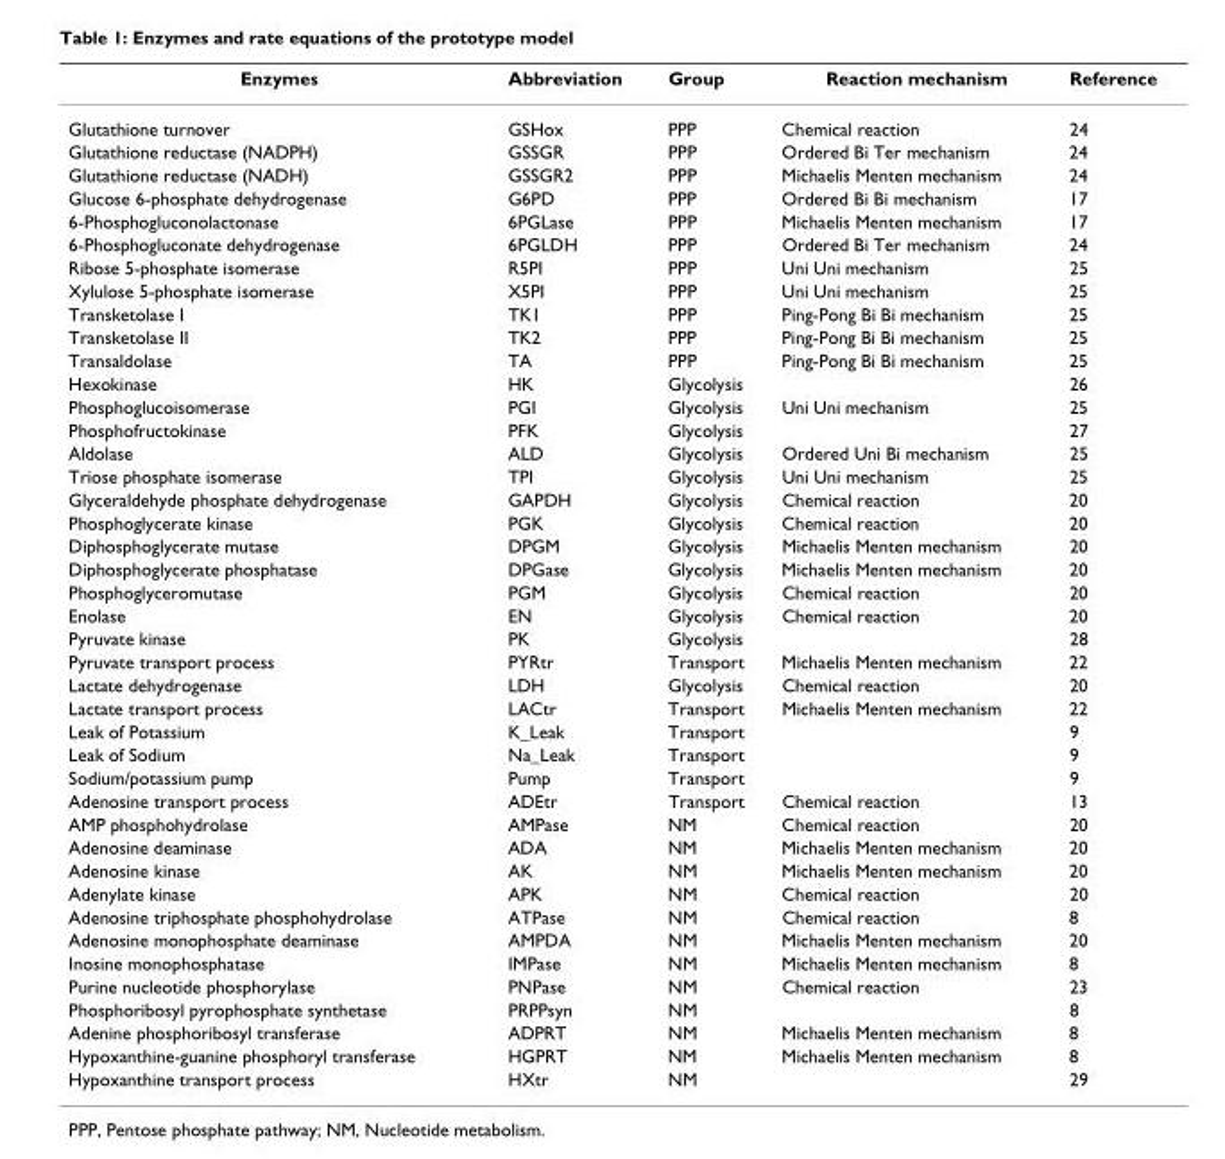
<table><thead><tr><td>Enzymes</td><td>Abbreviation</td><td>Group</td><td>Reaction mechanism</td><td>Reference</td></tr></thead><tbody><tr><td>Glutathione turnover</td><td>GSHox</td><td>PPP</td><td>Chemical reaction</td><td>24</td></tr><tr><td>Glutathione reductase (NADPH)</td><td>GSSGR</td><td>PPP</td><td>Ordered Bi Ter mechanism</td><td>24</td></tr><tr><td>Glutathione reductase (NADH)</td><td>GSSGR2</td><td>PPP</td><td>Michaelis Menten mechanism</td><td>24</td></tr><tr><td>Glucose 6-phosphate dehydrogenase</td><td>G6PD</td><td>PPP</td><td>Ordered Bi Bi mechanism</td><td>17</td></tr><tr><td>6-Phosphogluconolactonase</td><td>6PGLase</td><td>PPP</td><td>Michaelis Menten mechanism</td><td>17</td></tr><tr><td>6-Phosphogluconate dehydrogenase</td><td>6PGLDH</td><td>PPP</td><td>Ordered Bi Ter mechanism</td><td>24</td></tr><tr><td>Ribose 5-phosphate isomerase</td><td>R5PI</td><td>PPP</td><td>Uni Uni mechanism</td><td>25</td></tr><tr><td>Xylulose 5-phosphate isomerase</td><td>X5PI</td><td>PPP</td><td>Uni Uni mechanism</td><td>25</td></tr><tr><td>Transketolase I</td><td>TK1</td><td>PPP</td><td>Ping-Pong Bi Bi mechanism</td><td>25</td></tr><tr><td>Transketolase II</td><td>TK2</td><td>PPP</td><td>Ping-Pong Bi Bi mechanism</td><td>25</td></tr><tr><td>Transaldolase</td><td>TA</td><td>PPP</td><td>Ping-Pong Bi Bi mechanism</td><td>25</td></tr><tr><td>Hexokinase</td><td>HK</td><td>Glycolysis</td><td></td><td>26</td></tr><tr><td>Phosphoglucoisomerase</td><td>PGI</td><td>Glycolysis</td><td>Uni Uni mechanism</td><td>25</td></tr><tr><td>Phosphofructokinase</td><td>PFK</td><td>Glycolysis</td><td></td><td>27</td></tr><tr><td>Aldolase</td><td>ALD</td><td>Glycolysis</td><td>Ordered Uni Bi mechanism</td><td>25</td></tr><tr><td>Triose phosphate isomerase</td><td>TPI</td><td>Glycolysis</td><td>Uni Uni mechanism</td><td>25</td></tr><tr><td>Glyceraldehyde phosphate dehydrogenase</td><td>GAPDH</td><td>Glycolysis</td><td>Chemical reaction</td><td>20</td></tr><tr><td>Phosphoglycerate kinase</td><td>PGK</td><td>Glycolysis</td><td>Chemical reaction</td><td>20</td></tr><tr><td>Diphosphoglycerate mutase</td><td>DPGM</td><td>Glycolysis</td><td>Michaelis Menten mechanism</td><td>20</td></tr><tr><td>Diphosphoglycerate phosphatase</td><td>DPGase</td><td>Glycolysis</td><td>Michaelis Menten mechanism</td><td>20</td></tr><tr><td>Phosphoglyceromutase</td><td>PGM</td><td>Glycolysis</td><td>Chemical reaction</td><td>20</td></tr><tr><td>Enolase</td><td>EN</td><td>Glycolysis</td><td>Chemical reaction</td><td>20</td></tr><tr><td>Pyruvate kinase</td><td>PK</td><td>Glycolysis</td><td></td><td>28</td></tr><tr><td>Pyruvate transport process</td><td>PYRtr</td><td>Transport</td><td>Michaelis Menten mechanism</td><td>22</td></tr><tr><td>Lactate dehydrogenase</td><td>LDH</td><td>Glycolysis</td><td>Chemical reaction</td><td>20</td></tr><tr><td>Lactate transport process</td><td>LACtr</td><td>Transport</td><td>Michaelis Menten mechanism</td><td>22</td></tr><tr><td>Leak of Potassium</td><td>K_Leak</td><td>Transport</td><td></td><td>9</td></tr><tr><td>Leak of Sodium</td><td>Na_Leak</td><td>Transport</td><td></td><td>9</td></tr><tr><td>Sodium/potassium pump</td><td>Pump</td><td>Transport</td><td></td><td>9</td></tr><tr><td>Adenosine transport process</td><td>ADEtr</td><td>Transport</td><td>Chemical reaction</td><td>13</td></tr><tr><td>AMP phosphohydrolase</td><td>AMPase</td><td>NM</td><td>Chemical reaction</td><td>20</td></tr><tr><td>Adenosine deaminase</td><td>ADA</td><td>NM</td><td>Michaelis Menten mechanism</td><td>20</td></tr><tr><td>Adenosine kinase</td><td>AK</td><td>NM</td><td>Michaelis Menten mechanism</td><td>20</td></tr><tr><td>Adenylate kinase</td><td>APK</td><td>NM</td><td>Chemical reaction</td><td>20</td></tr><tr><td>Adenosine triphosphate phosphohydrolase</td><td>ATPase</td><td>NM</td><td>Chemical reaction</td><td>8</td></tr><tr><td>Adenosine monophosphate deaminase</td><td>AMPDA</td><td>NM</td><td>Michaelis Menten mechanism</td><td>20</td></tr><tr><td>Inosine monophosphatase</td><td>IMPase</td><td>NM</td><td>Michaelis Menten mechanism</td><td>8</td></tr><tr><td>Purine nucleotide phosphorylase</td><td>PNPase</td><td>NM</td><td>Chemical reaction</td><td>23</td></tr><tr><td>Phosphoribosyl pyrophosphate synthetase</td><td>PRPPsyn</td><td>NM</td><td></td><td>8</td></tr><tr><td>Adenine phosphoribosyl transferase</td><td>ADPRT</td><td>NM</td><td>Michaelis Menten mechanism</td><td>8</td></tr><tr><td>Hypoxanthine-guanine phosphoryl transferase</td><td>HGPRT</td><td>NM</td><td>Michaelis Menten mechanism</td><td>8</td></tr><tr><td>Hypoxanthine transport process</td><td>HXtr</td><td>NM</td><td></td><td>29</td></tr></tbody></table>